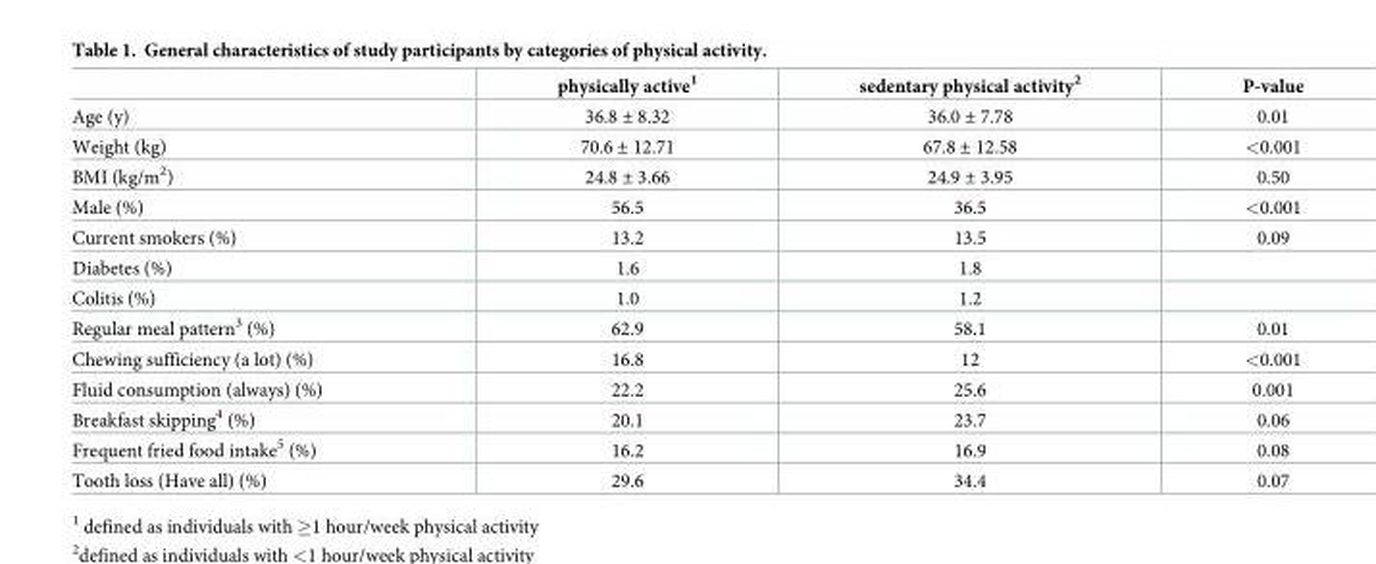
<table><thead><tr><td></td><td>physically active<sup>1</sup></td><td>sedentary physical activity<sup>2</sup></td><td>P-value</td></tr></thead><tbody><tr><td>Age (y)</td><td>36.8 ± 8.32</td><td>36.0 ± 7.78</td><td>0.01</td></tr><tr><td>Weight (kg)</td><td>70.6 ± 12.71</td><td>67.8 ± 12.58</td><td>&lt;0.001</td></tr><tr><td>BMI (kg/m<sup>2</sup>)</td><td>24.8 ± 3.66</td><td>24.9 ± 3.95</td><td>0.50</td></tr><tr><td>Male (%)</td><td>56.5</td><td>36.5</td><td>&lt;0.001</td></tr><tr><td>Current smokers (%)</td><td>13.2</td><td>13.5</td><td>0.09</td></tr><tr><td>Diabetes (%)</td><td>1.6</td><td>1.8</td><td></td></tr><tr><td>Colitis (%)</td><td>1.0</td><td>1.2</td><td></td></tr><tr><td>Regular meal pattern<sup>3</sup> (%)</td><td>62.9</td><td>58.1</td><td>0.01</td></tr><tr><td>Chewing sufficiency (a lot) (%)</td><td>16.8</td><td>12</td><td>&lt;0.001</td></tr><tr><td>Fluid consumption (always) (%)</td><td>22.2</td><td>25.6</td><td>0.001</td></tr><tr><td>Breakfast skipping<sup>4</sup> (%)</td><td>20.1</td><td>23.7</td><td>0.06</td></tr><tr><td>Frequent fried food intake<sup>5</sup> (%)</td><td>16.2</td><td>16.9</td><td>0.08</td></tr><tr><td>Tooth loss (Have all) (%)</td><td>29.6</td><td>34.4</td><td>0.07</td></tr></tbody></table>